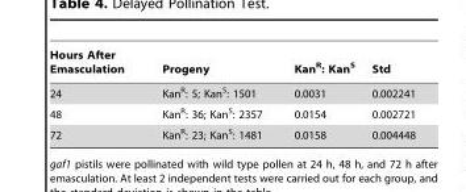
<table><thead><tr><td>Hours After Emasculation</td><td>Progeny</td><td>KanR: KanS</td><td>Std</td></tr></thead><tbody><tr><td>24</td><td>Kan<sup>R</sup>: 5; Kan<sup>S</sup>: 1501</td><td>0.0031</td><td>0.002241</td></tr><tr><td>48</td><td>Kan<sup>R</sup>: 36; Kan<sup>S</sup>: 2357</td><td>0.0154</td><td>0.002721</td></tr><tr><td>72</td><td>Kan<sup>R</sup>: 23; Kan<sup>S</sup>: 1481</td><td>0.0158</td><td>0.004448</td></tr></tbody></table>